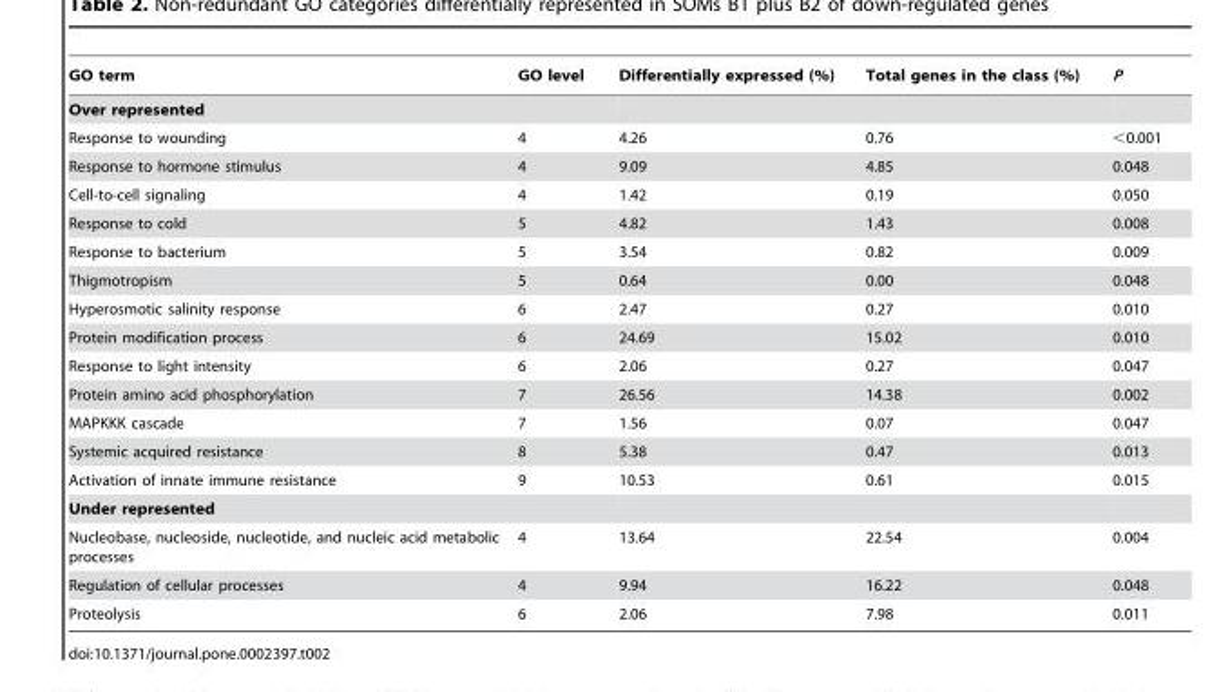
<table><thead><tr><td>GO term</td><td>GO level</td><td>Differentially expressed (%)</td><td>Total genes in the class (%)</td><td>P</td></tr></thead><tbody><tr><td colspan="5">Over represented</td></tr><tr><td>Response to wounding</td><td>4</td><td>4.26</td><td>0.76</td><td>&lt;0.001</td></tr><tr><td>Response to hormone stimulus</td><td>4</td><td>9.09</td><td>4.85</td><td>0.048</td></tr><tr><td>Cell-to-cell signaling</td><td>4</td><td>1.42</td><td>0.19</td><td>0.050</td></tr><tr><td>Response to cold</td><td>5</td><td>4.82</td><td>1.43</td><td>0.008</td></tr><tr><td>Response to bacterium</td><td>5</td><td>3.54</td><td>0.82</td><td>0.009</td></tr><tr><td>Thigmotropism</td><td>5</td><td>0.64</td><td>0.00</td><td>0.048</td></tr><tr><td>Hyperosmotic salinity response</td><td>6</td><td>2.47</td><td>0.27</td><td>0.010</td></tr><tr><td>Protein modification process</td><td>6</td><td>24.69</td><td>15.02</td><td>0.010</td></tr><tr><td>Response to light intensity</td><td>6</td><td>2.06</td><td>0.27</td><td>0.047</td></tr><tr><td>Protein amino acid phosphorylation</td><td>7</td><td>26.56</td><td>14.38</td><td>0.002</td></tr><tr><td>MAPKKK cascade</td><td>7</td><td>1.56</td><td>0.07</td><td>0.047</td></tr><tr><td>Systemic acquired resistance</td><td>8</td><td>5.38</td><td>0.47</td><td>0.013</td></tr><tr><td>Activation of innate immune resistance</td><td>9</td><td>10.53</td><td>0.61</td><td>0.015</td></tr><tr><td colspan="5">Under represented</td></tr><tr><td>Nucleobase, nucleoside, nucleotide, and nucleic acid metabolic processes</td><td>4</td><td>13.64</td><td>22.54</td><td>0.004</td></tr><tr><td>Regulation of cellular processes</td><td>4</td><td>9.94</td><td>16.22</td><td>0.048</td></tr><tr><td>Proteolysis</td><td>6</td><td>2.06</td><td>7.98</td><td>0.011</td></tr></tbody></table>